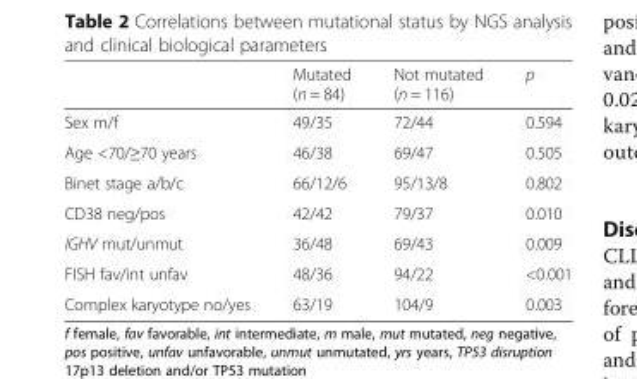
<table><thead><tr><td></td><td>Mutated (n = 84)</td><td>Not mutated (n = 116)</td><td>p</td></tr></thead><tbody><tr><td>Sex m/f</td><td>49/35</td><td>72/44</td><td>0.594</td></tr><tr><td>Age &lt;70/≥70 years</td><td>46/38</td><td>69/47</td><td>0.505</td></tr><tr><td>Binet stage a/b/c</td><td>66/12/6</td><td>95/13/8</td><td>0.802</td></tr><tr><td>CD38 neg/pos</td><td>42/42</td><td>79/37</td><td>0.010</td></tr><tr><td>IGHV mut/unmut</td><td>36/48</td><td>69/43</td><td>0.009</td></tr><tr><td>FISH fav/int unfav</td><td>48/36</td><td>94/22</td><td>&lt;0.001</td></tr><tr><td>Complex karyotype no/yes</td><td>63/19</td><td>104/9</td><td>0.003</td></tr></tbody></table>